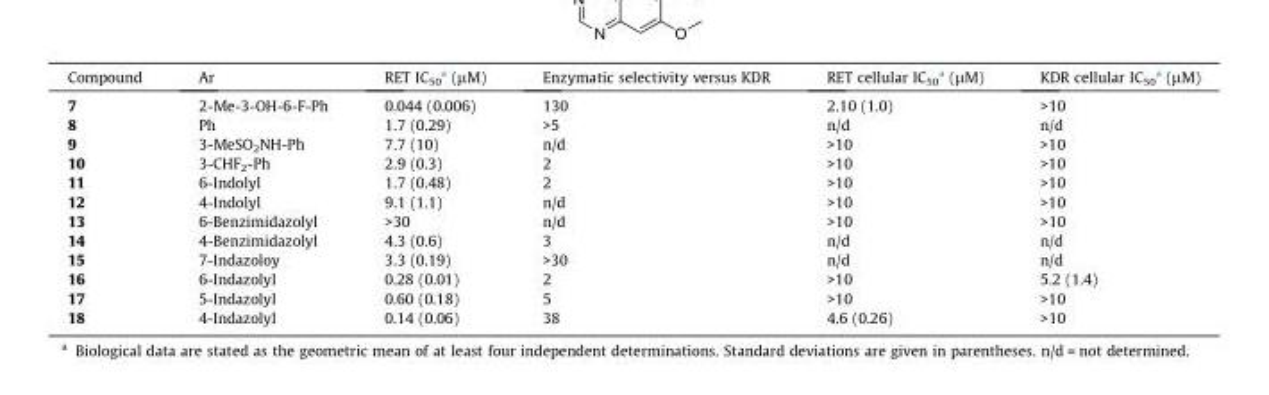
<table><thead><tr><td>Compound</td><td>Ar</td><td>RET IC<sub>50</sub> <sup>a</sup> (μM)</td><td>Enzymatic selectivity versus KDR</td><td>RET cellular IC<sub>50</sub> <sup>a</sup> (μM)</td><td>KDR cellular IC<sub>50</sub> <sup>a</sup> (μM)</td></tr></thead><tbody><tr><td>7</td><td>2-Me-3-OH-6-F-Ph</td><td>0.044 (0.006)</td><td>130</td><td>2.10 (1.0)</td><td>&gt;10</td></tr><tr><td>8</td><td>Ph</td><td>1.7 (0.29)</td><td>&gt;5</td><td>n/d</td><td>n/d</td></tr><tr><td>9</td><td>3-MeSO<sub>2</sub>NH-Ph</td><td>7.7 (10)</td><td>n/d</td><td>&gt;10</td><td>&gt;10</td></tr><tr><td>10</td><td>3-CHF<sub>2</sub>-Ph</td><td>2.9 (0.3)</td><td>2</td><td>&gt;10</td><td>&gt;10</td></tr><tr><td>11</td><td>6-Indolyl</td><td>1.7 (0.48)</td><td>2</td><td>&gt;10</td><td>&gt;10</td></tr><tr><td>12</td><td>4-Indolyl</td><td>9.1 (1.1)</td><td>n/d</td><td>&gt;10</td><td>&gt;10</td></tr><tr><td>13</td><td>6-Benzimidazolyl</td><td>&gt;30</td><td>n/d</td><td>&gt;10</td><td>&gt;10</td></tr><tr><td>14</td><td>4-Benzimidazolyl</td><td>4.3 (0.6)</td><td>3</td><td>n/d</td><td>n/d</td></tr><tr><td>15</td><td>7-Indazoloy</td><td>3.3 (0.19)</td><td>&gt;30</td><td>n/d</td><td>n/d</td></tr><tr><td>16</td><td>6-Indazolyl</td><td>0.28 (0.01)</td><td>2</td><td>&gt;10</td><td>5.2 (1.4)</td></tr><tr><td>17</td><td>5-Indazolyl</td><td>0.60 (0.18)</td><td>5</td><td>&gt;10</td><td>&gt;10</td></tr><tr><td>18</td><td>4-Indazolyl</td><td>0.14 (0.06)</td><td>38</td><td>4.6 (0.26)</td><td>&gt;10</td></tr></tbody></table>